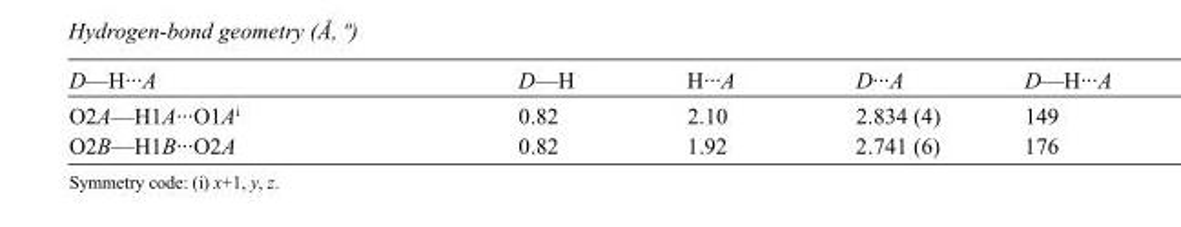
<table><tbody><tr><td>D—H···A</td><td>D—H</td><td>H···A</td><td>D···A</td><td>D—H···A</td></tr><tr><td>O2A—H1A···O1A<sup>i</sup></td><td>0.82</td><td>2.10</td><td>2.834 (4)</td><td>149</td></tr><tr><td>O2B—H1B···O2A</td><td>0.82</td><td>1.92</td><td>2.741 (6)</td><td>176</td></tr></tbody></table>